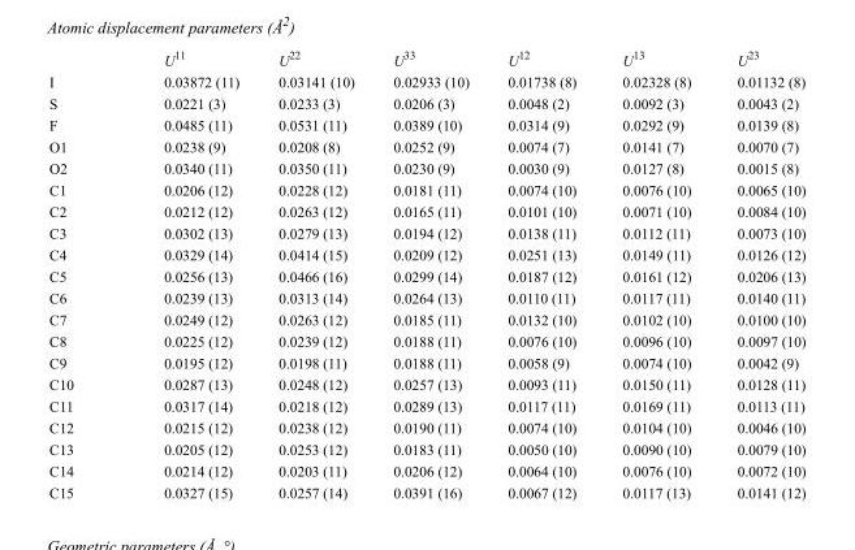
<table><thead><tr><td></td><td>U<sup>11</sup></td><td>U<sup>22</sup></td><td>U<sup>33</sup></td><td>U<sup>12</sup></td><td>U<sup>13</sup></td><td>U<sup>23</sup></td></tr></thead><tbody><tr><td>I</td><td>0.03872 (11)</td><td>0.03141 (10)</td><td>0.02933 (10)</td><td>0.01738 (8)</td><td>0.02328 (8)</td><td>0.01132 (8)</td></tr><tr><td>S</td><td>0.0221 (3)</td><td>0.0233 (3)</td><td>0.0206 (3)</td><td>0.0048 (2)</td><td>0.0092 (3)</td><td>0.0043 (2)</td></tr><tr><td>F</td><td>0.0485 (11)</td><td>0.0531 (11)</td><td>0.0389 (10)</td><td>0.0314 (9)</td><td>0.0292 (9)</td><td>0.0139 (8)</td></tr><tr><td>O1</td><td>0.0238 (9)</td><td>0.0208 (8)</td><td>0.0252 (9)</td><td>0.0074 (7)</td><td>0.0141 (7)</td><td>0.0070 (7)</td></tr><tr><td>O2</td><td>0.0340 (11)</td><td>0.0350 (11)</td><td>0.0230 (9)</td><td>0.0030 (9)</td><td>0.0127 (8)</td><td>0.0015 (8)</td></tr><tr><td>C1</td><td>0.0206 (12)</td><td>0.0228 (12)</td><td>0.0181 (11)</td><td>0.0074 (10)</td><td>0.0076 (10)</td><td>0.0065 (10)</td></tr><tr><td>C2</td><td>0.0212 (12)</td><td>0.0263 (12)</td><td>0.0165 (11)</td><td>0.0101 (10)</td><td>0.0071 (10)</td><td>0.0084 (10)</td></tr><tr><td>C3</td><td>0.0302 (13)</td><td>0.0279 (13)</td><td>0.0194 (12)</td><td>0.0138 (11)</td><td>0.0112 (11)</td><td>0.0073 (10)</td></tr><tr><td>C4</td><td>0.0329 (14)</td><td>0.0414 (15)</td><td>0.0209 (12)</td><td>0.0251 (13)</td><td>0.0149 (11)</td><td>0.0126 (12)</td></tr><tr><td>C5</td><td>0.0256 (13)</td><td>0.0466 (16)</td><td>0.0299 (14)</td><td>0.0187 (12)</td><td>0.0161 (12)</td><td>0.0206 (13)</td></tr><tr><td>C6</td><td>0.0239 (13)</td><td>0.0313 (14)</td><td>0.0264 (13)</td><td>0.0110 (11)</td><td>0.0117 (11)</td><td>0.0140 (11)</td></tr><tr><td>C7</td><td>0.0249 (12)</td><td>0.0263 (12)</td><td>0.0185 (11)</td><td>0.0132 (10)</td><td>0.0102 (10)</td><td>0.0100 (10)</td></tr><tr><td>C8</td><td>0.0225 (12)</td><td>0.0239 (12)</td><td>0.0188 (11)</td><td>0.0076 (10)</td><td>0.0096 (10)</td><td>0.0097 (10)</td></tr><tr><td>C9</td><td>0.0195 (12)</td><td>0.0198 (11)</td><td>0.0188 (11)</td><td>0.0058 (9)</td><td>0.0074 (10)</td><td>0.0042 (9)</td></tr><tr><td>C10</td><td>0.0287 (13)</td><td>0.0248 (12)</td><td>0.0257 (13)</td><td>0.0093 (11)</td><td>0.0150 (11)</td><td>0.0128 (11)</td></tr><tr><td>C11</td><td>0.0317 (14)</td><td>0.0218 (12)</td><td>0.0289 (13)</td><td>0.0117 (11)</td><td>0.0169 (11)</td><td>0.0113 (11)</td></tr><tr><td>C12</td><td>0.0215 (12)</td><td>0.0238 (12)</td><td>0.0190 (11)</td><td>0.0074 (10)</td><td>0.0104 (10)</td><td>0.0046 (10)</td></tr><tr><td>C13</td><td>0.0205 (12)</td><td>0.0253 (12)</td><td>0.0183 (11)</td><td>0.0050 (10)</td><td>0.0090 (10)</td><td>0.0079 (10)</td></tr><tr><td>C14</td><td>0.0214 (12)</td><td>0.0203 (11)</td><td>0.0206 (12)</td><td>0.0064 (10)</td><td>0.0076 (10)</td><td>0.0072 (10)</td></tr><tr><td>C15</td><td>0.0327 (15)</td><td>0.0257 (14)</td><td>0.0391 (16)</td><td>0.0067 (12)</td><td>0.0117 (13)</td><td>0.0141 (12)</td></tr></tbody></table>